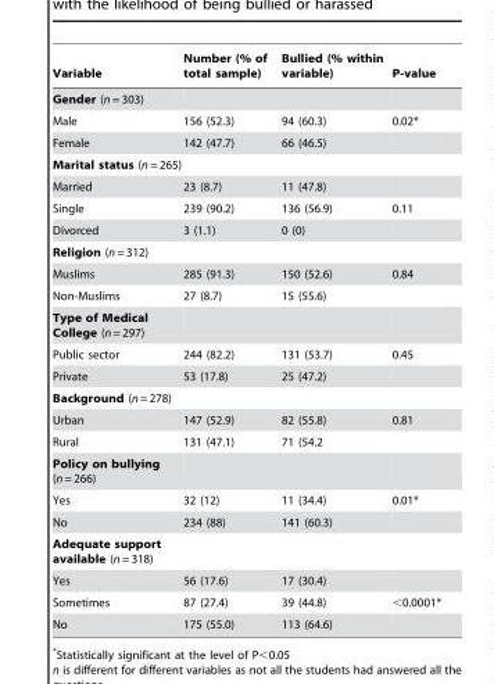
<table><thead><tr><td>Variable</td><td>Number (% of total sample)</td><td>Bullied (% within variable)</td><td>P-value</td></tr></thead><tbody><tr><td colspan="4">Gender (n = 303)</td></tr><tr><td>Male</td><td>156 (52.3)</td><td>94 (60.3)</td><td>0.02*</td></tr><tr><td>Female</td><td>142 (47.7)</td><td>66 (46.5)</td><td></td></tr><tr><td colspan="4">Marital status (n = 265)</td></tr><tr><td>Married</td><td>23 (8.7)</td><td>11 (47.8)</td><td></td></tr><tr><td>Single</td><td>239 (90.2)</td><td>136 (56.9)</td><td>0.11</td></tr><tr><td>Divorced</td><td>3 (1.1)</td><td>0 (0)</td><td></td></tr><tr><td colspan="4">Religion (n = 312)</td></tr><tr><td>Muslims</td><td>285 (91.3)</td><td>150 (52.6)</td><td>0.84</td></tr><tr><td>Non-Muslims</td><td>27 (8.7)</td><td>15 (55.6)</td><td></td></tr><tr><td colspan="4">Type of Medical College (n = 297)</td></tr><tr><td>Public sector</td><td>244 (82.2)</td><td>131 (53.7)</td><td>0.45</td></tr><tr><td>Private</td><td>53 (17.8)</td><td>25 (47.2)</td><td></td></tr><tr><td colspan="4">Background (n = 278)</td></tr><tr><td>Urban</td><td>147 (52.9)</td><td>82 (55.8)</td><td>0.81</td></tr><tr><td>Rural</td><td>131 (47.1)</td><td>71 (54.2</td><td></td></tr><tr><td colspan="4">Policy on bullying (n = 266)</td></tr><tr><td>Yes</td><td>32 (12)</td><td>11 (34.4)</td><td>0.01*</td></tr><tr><td>No</td><td>234 (88)</td><td>141 (60.3)</td><td></td></tr><tr><td colspan="4">Adequate support available (n = 318)</td></tr><tr><td>Yes</td><td>56 (17.6)</td><td>17 (30.4)</td><td></td></tr><tr><td>Sometimes</td><td>87 (27.4)</td><td>39 (44.8)</td><td>&lt;0.0001*</td></tr><tr><td>No</td><td>175 (55.0)</td><td>113 (64.6)</td><td></td></tr></tbody></table>